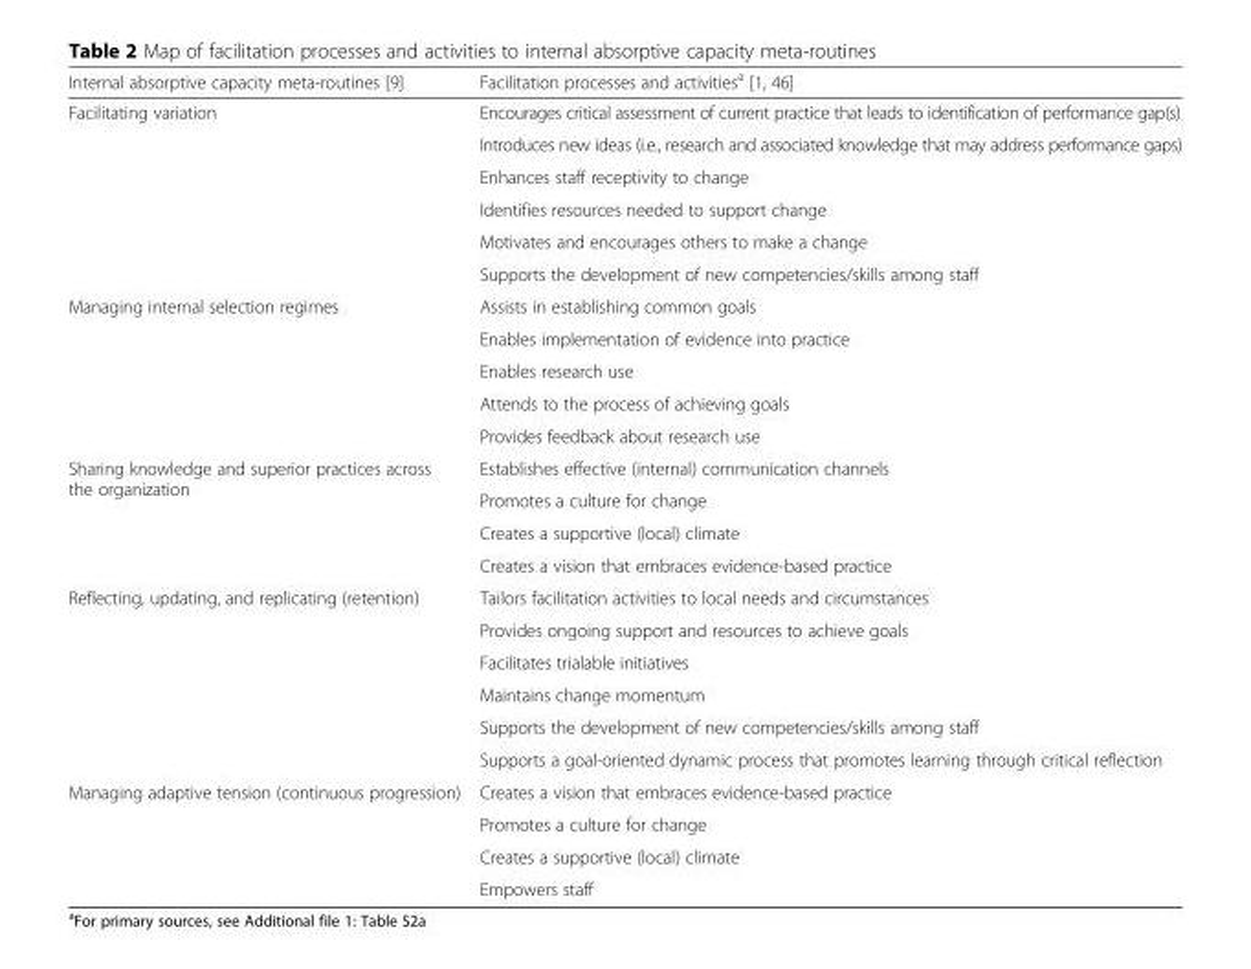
<table><thead><tr><td>Internal absorptive capacity meta-routines [9]</td><td>Facilitation processes and activities<sup>a</sup> [1, 46]</td></tr></thead><tbody><tr><td rowspan="6">Facilitating variation</td><td>Encourages critical assessment of current practice that leads to identification of performance gap(s)</td></tr><tr><td>Introduces new ideas (i.e., research and associated knowledge that may address performance gaps)</td></tr><tr><td>Enhances staff receptivity to change</td></tr><tr><td>Identifies resources needed to support change</td></tr><tr><td>Motivates and encourages others to make a change</td></tr><tr><td>Supports the development of new competencies/skills among staff</td></tr><tr><td rowspan="5">Managing internal selection regimes</td><td>Assists in establishing common goals</td></tr><tr><td>Enables implementation of evidence into practice</td></tr><tr><td>Enables research use</td></tr><tr><td>Attends to the process of achieving goals</td></tr><tr><td>Provides feedback about research use</td></tr><tr><td rowspan="4">Sharing knowledge and superior practices across the organization</td><td>Establishes effective (internal) communication channels</td></tr><tr><td>Promotes a culture for change</td></tr><tr><td>Creates a supportive (local) climate</td></tr><tr><td>Creates a vision that embraces evidence-based practice</td></tr><tr><td rowspan="6">Reflecting, updating, and replicating (retention)</td><td>Tailors facilitation activities to local needs and circumstances</td></tr><tr><td>Provides ongoing support and resources to achieve goals</td></tr><tr><td>Facilitates trialable initiatives</td></tr><tr><td>Maintains change momentum</td></tr><tr><td>Supports the development of new competencies/skills among staff</td></tr><tr><td>Supports a goal-oriented dynamic process that promotes learning through critical reflection</td></tr><tr><td rowspan="4">Managing adaptive tension (continuous progression)</td><td>Creates a vision that embraces evidence-based practice</td></tr><tr><td>Promotes a culture for change</td></tr><tr><td>Creates a supportive (local) climate</td></tr><tr><td>Empowers staff</td></tr></tbody></table>